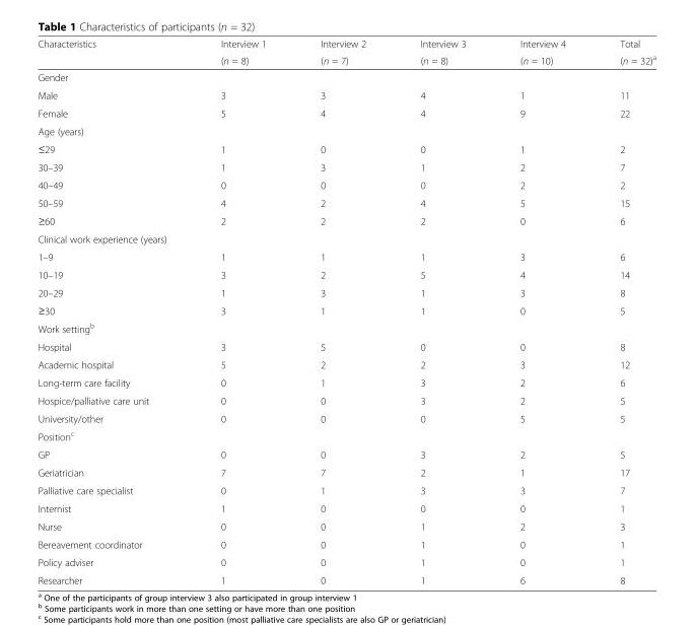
<table><thead><tr><td rowspan="2">Characteristics</td><td rowspan="2">Interview 1 (n = 8)</td><td rowspan="2">Interview 2 (n = 7)</td><td rowspan="2">Interview 3 (n = 8)</td><td rowspan="2">Interview 4 (n = 10)</td><td rowspan="2">Total (n = 32)<sup>a</sup></td></tr><tr></tr></thead><tbody><tr><td colspan="6">Gender</td></tr><tr><td>Male</td><td>3</td><td>3</td><td>4</td><td>1</td><td>11</td></tr><tr><td>Female</td><td>5</td><td>4</td><td>4</td><td>9</td><td>22</td></tr><tr><td colspan="6">Age (years)</td></tr><tr><td>≤29</td><td>1</td><td>0</td><td>0</td><td>1</td><td>2</td></tr><tr><td>30–39</td><td>1</td><td>3</td><td>1</td><td>2</td><td>7</td></tr><tr><td>40–49</td><td>0</td><td>0</td><td>0</td><td>2</td><td>2</td></tr><tr><td>50–59</td><td>4</td><td>2</td><td>4</td><td>5</td><td>15</td></tr><tr><td>≥60</td><td>2</td><td>2</td><td>2</td><td>0</td><td>6</td></tr><tr><td colspan="6">Clinical work experience (years)</td></tr><tr><td>1–9</td><td>1</td><td>1</td><td>1</td><td>3</td><td>6</td></tr><tr><td>10–19</td><td>3</td><td>2</td><td>5</td><td>4</td><td>14</td></tr><tr><td>20–29</td><td>1</td><td>3</td><td>1</td><td>3</td><td>8</td></tr><tr><td>≥30</td><td>3</td><td>1</td><td>1</td><td>0</td><td>5</td></tr><tr><td colspan="6">Work setting<sup>b</sup></td></tr><tr><td>Hospital</td><td>3</td><td>5</td><td>0</td><td>0</td><td>8</td></tr><tr><td>Academic hospital</td><td>5</td><td>2</td><td>2</td><td>3</td><td>12</td></tr><tr><td>Long-term care facility</td><td>0</td><td>1</td><td>3</td><td>2</td><td>6</td></tr><tr><td>Hospice/palliative care unit</td><td>0</td><td>0</td><td>3</td><td>2</td><td>5</td></tr><tr><td>University/other</td><td>0</td><td>0</td><td>0</td><td>5</td><td>5</td></tr><tr><td colspan="6">Position<sup>c</sup></td></tr><tr><td>GP</td><td>0</td><td>0</td><td>3</td><td>2</td><td>5</td></tr><tr><td>Geriatrician</td><td>7</td><td>7</td><td>2</td><td>1</td><td>17</td></tr><tr><td>Palliative care specialist</td><td>0</td><td>1</td><td>3</td><td>3</td><td>7</td></tr><tr><td>Internist</td><td>1</td><td>0</td><td>0</td><td>0</td><td>1</td></tr><tr><td>Nurse</td><td>0</td><td>0</td><td>1</td><td>2</td><td>3</td></tr><tr><td>Bereavement coordinator</td><td>0</td><td>0</td><td>1</td><td>0</td><td>1</td></tr><tr><td>Policy adviser</td><td>0</td><td>0</td><td>1</td><td>0</td><td>1</td></tr><tr><td>Researcher</td><td>1</td><td>0</td><td>1</td><td>6</td><td>8</td></tr></tbody></table>